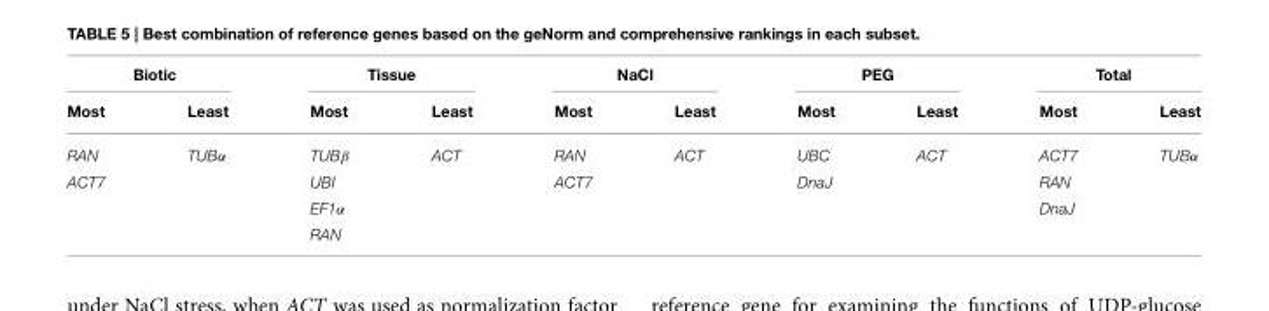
<table><thead><tr><td colspan="2">Biotic</td><td colspan="2">Tissue</td><td colspan="2">NaCl</td><td colspan="2">PEG</td><td colspan="2">Total</td></tr><tr><td>Most</td><td>Least</td><td>Most</td><td>Least</td><td>Most</td><td>Least</td><td>Most</td><td>Least</td><td>Most</td><td>Least</td></tr></thead><tbody><tr><td>RAN</td><td>TUBα</td><td>TUBβ</td><td>ACT</td><td>RAN</td><td>ACT</td><td>UBC</td><td>ACT</td><td>ACT7</td><td>TUBα</td></tr><tr><td rowspan="3">ACT7</td><td></td><td>UBI</td><td></td><td>ACT7</td><td></td><td>DnaJ</td><td></td><td>RAN</td><td></td></tr><tr><td></td><td>EF1α</td><td></td><td></td><td></td><td></td><td></td><td>DnaJ</td><td></td></tr><tr><td></td><td>RAN</td><td></td><td></td><td></td><td></td><td></td><td></td><td></td></tr></tbody></table>